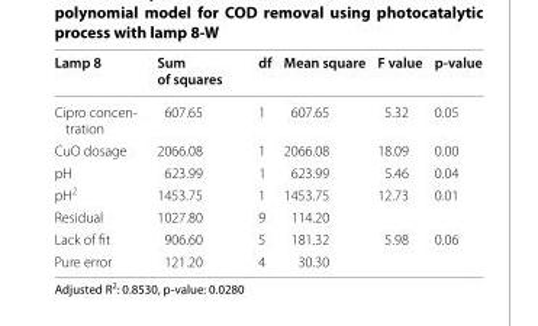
<table><thead><tr><td>Lamp 8</td><td>Sum of squares</td><td>df</td><td>Mean square</td><td>F value</td><td>p-value</td></tr></thead><tbody><tr><td>Cipro concen- tration</td><td>607.65</td><td>1</td><td>607.65</td><td>5.32</td><td>0.05</td></tr><tr><td>CuO dosage</td><td>2066.08</td><td>1</td><td>2066.08</td><td>18.09</td><td>0.00</td></tr><tr><td>pH</td><td>623.99</td><td>1</td><td>623.99</td><td>5.46</td><td>0.04</td></tr><tr><td>pH<sup>2</sup></td><td>1453.75</td><td>1</td><td>1453.75</td><td>12.73</td><td>0.01</td></tr><tr><td>Residual</td><td>1027.80</td><td>9</td><td>114.20</td><td></td><td></td></tr><tr><td>Lack of fit</td><td>906.60</td><td>5</td><td>181.32</td><td>5.98</td><td>0.06</td></tr><tr><td>Pure error</td><td>121.20</td><td>4</td><td>30.30</td><td></td><td></td></tr></tbody></table>